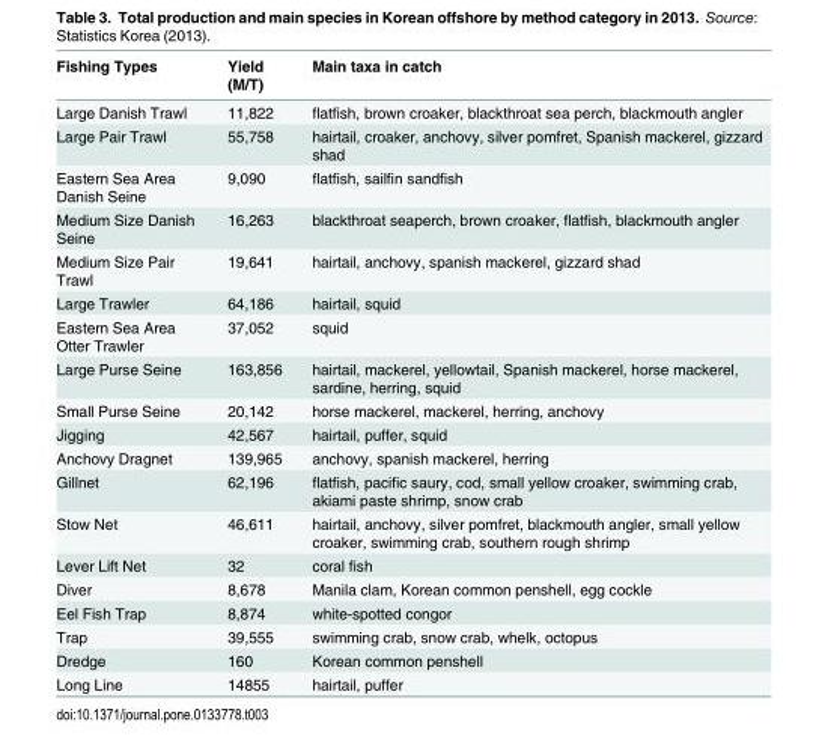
<table><thead><tr><td>Fishing Types</td><td>Yield (M/T)</td><td>Main taxa in catch</td></tr></thead><tbody><tr><td>Large Danish Trawl</td><td>11,822</td><td>flatfish, brown croaker, blackthroat sea perch, blackmouth angler</td></tr><tr><td>Large Pair Trawl</td><td>55,758</td><td>hairtail, croaker, anchovy, silver pomfret, Spanish mackerel, gizzard shad</td></tr><tr><td>Eastern Sea Area Danish Seine</td><td>9,090</td><td>flatfish, sailfin sandfish</td></tr><tr><td>Medium Size Danish Seine</td><td>16,263</td><td>blackthroat seaperch, brown croaker, flatfish, blackmouth angler</td></tr><tr><td>Medium Size Pair Trawl</td><td>19,641</td><td>hairtail, anchovy, spanish mackerel, gizzard shad</td></tr><tr><td>Large Trawler</td><td>64,186</td><td>hairtail, squid</td></tr><tr><td>Eastern Sea Area Otter Trawler</td><td>37,052</td><td>squid</td></tr><tr><td>Large Purse Seine</td><td>163,856</td><td>hairtail, mackerel, yellowtail, Spanish mackerel, horse mackerel, sardine, herring, squid</td></tr><tr><td>Small Purse Seine</td><td>20,142</td><td>horse mackerel, mackerel, herring, anchovy</td></tr><tr><td>Jigging</td><td>42,567</td><td>hairtail, puffer, squid</td></tr><tr><td>Anchovy Dragnet</td><td>139,965</td><td>anchovy, spanish mackerel, herring</td></tr><tr><td>Gillnet</td><td>62,196</td><td>flatfish, pacific saury, cod, small yellow croaker, swimming crab, akiami paste shrimp, snow crab</td></tr><tr><td>Stow Net</td><td>46,611</td><td>hairtail, anchovy, silver pomfret, blackmouth angler, small yellow croaker, swimming crab, southern rough shrimp</td></tr><tr><td>Lever Lift Net</td><td>32</td><td>coral fish</td></tr><tr><td>Diver</td><td>8,678</td><td>Manila clam, Korean common penshell, egg cockle</td></tr><tr><td>Eel Fish Trap</td><td>8,874</td><td>white-spotted congor</td></tr><tr><td>Trap</td><td>39,555</td><td>swimming crab, snow crab, whelk, octopus</td></tr><tr><td>Dredge</td><td>160</td><td>Korean common penshell</td></tr><tr><td>Long Line</td><td>14855</td><td>hairtail, puffer</td></tr></tbody></table>